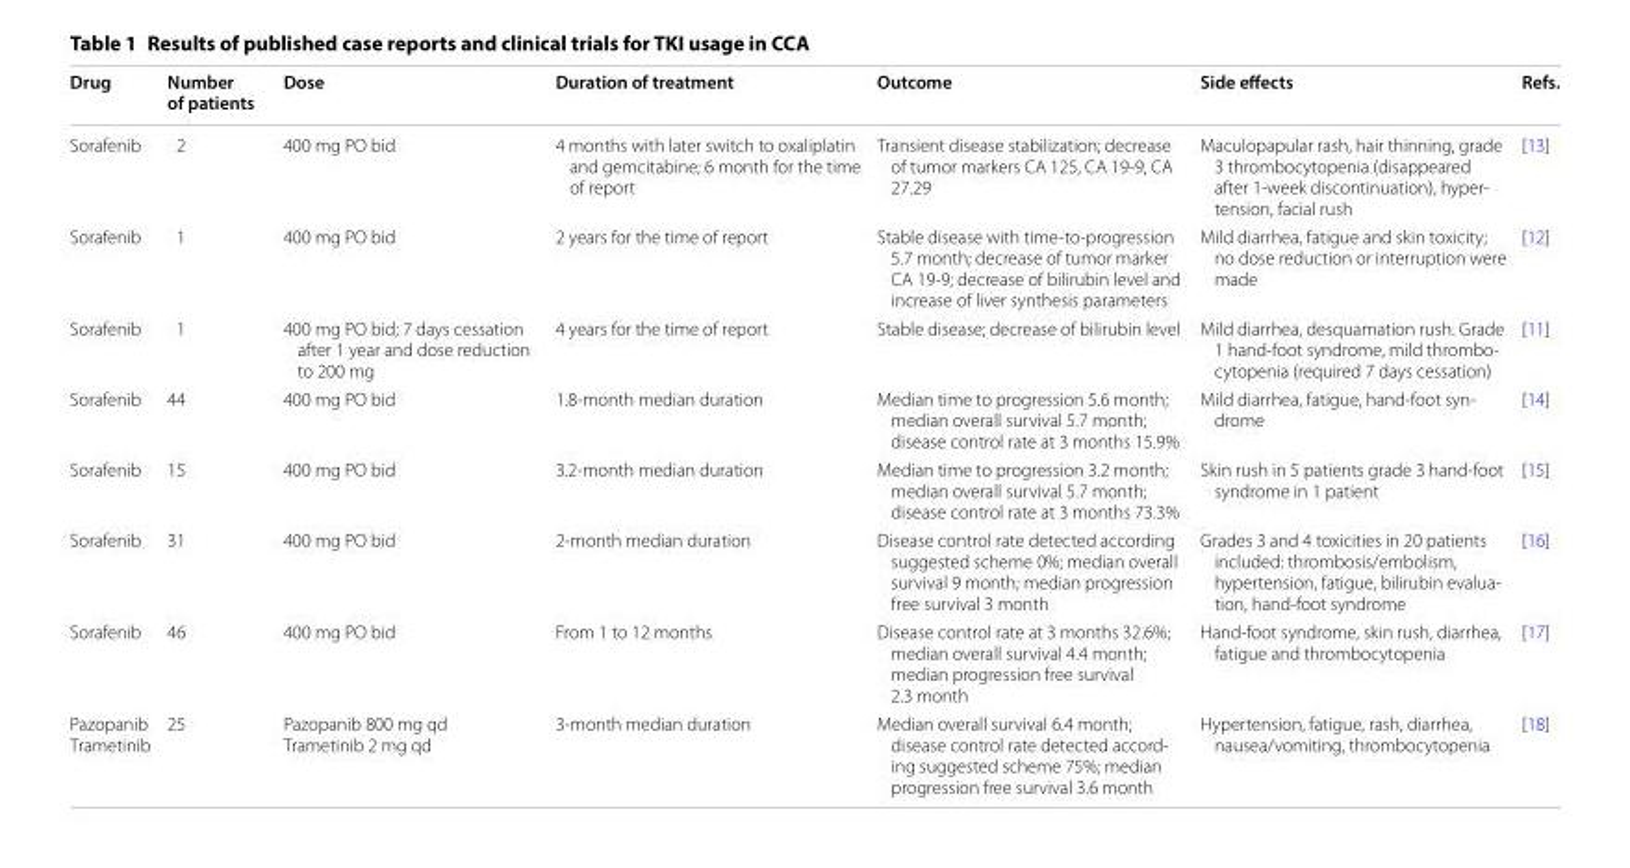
<table><thead><tr><td>Drug</td><td>Number of patients</td><td>Dose</td><td>Duration of treatment</td><td>Outcome</td><td>Side effects</td><td>Refs.</td></tr></thead><tbody><tr><td>Sorafenib</td><td>2</td><td>400 mg PO bid</td><td>4 months with later switch to oxaliplatin and gemcitabine; 6 month for the time of report</td><td>Transient disease stabilization; decrease of tumor markers CA 125, CA 19-9, CA 27.29</td><td>Maculopapular rash, hair thinning, grade 3 thrombocytopenia (disappeared after 1-week discontinuation), hyper- tension, facial rush</td><td>[13]</td></tr><tr><td>Sorafenib</td><td>1</td><td>400 mg PO bid</td><td>2 years for the time of report</td><td>Stable disease with time-to-progression 5.7 month; decrease of tumor marker CA 19-9; decrease of bilirubin level and increase of liver synthesis parameters</td><td>Mild diarrhea, fatigue and skin toxicity; no dose reduction or interruption were made</td><td>[12]</td></tr><tr><td>Sorafenib</td><td>1</td><td>400 mg PO bid; 7 days cessation after 1 year and dose reduction to 200 mg</td><td>4 years for the time of report</td><td>Stable disease; decrease of bilirubin level</td><td>Mild diarrhea, desquamation rush. Grade 1 hand-foot syndrome, mild thrombo- cytopenia (required 7 days cessation)</td><td>[11]</td></tr><tr><td>Sorafenib</td><td>44</td><td>400 mg PO bid</td><td>1.8-month median duration</td><td>Median time to progression 5.6 month; median overall survival 5.7 month; disease control rate at 3 months 15.9%</td><td>Mild diarrhea, fatigue, hand-foot syn- drome</td><td>[14]</td></tr><tr><td>Sorafenib</td><td>15</td><td>400 mg PO bid</td><td>3.2-month median duration</td><td>Median time to progression 3.2 month; median overall survival 5.7 month; disease control rate at 3 months 73.3%</td><td>Skin rush in 5 patients grade 3 hand-foot syndrome in 1 patient</td><td>[15]</td></tr><tr><td>Sorafenib</td><td>31</td><td>400 mg PO bid</td><td>2-month median duration</td><td>Disease control rate detected according suggested scheme 0%; median overall survival 9 month; median progression free survival 3 month</td><td>Grades 3 and 4 toxicities in 20 patients included: thrombosis/embolism, hypertension, fatigue, bilirubin evalua- tion, hand-foot syndrome</td><td>[16]</td></tr><tr><td>Sorafenib</td><td>46</td><td>400 mg PO bid</td><td>From 1 to 12 months</td><td>Disease control rate at 3 months 32.6%; median overall survival 4.4 month; median progression free survival 2.3 month</td><td>Hand-foot syndrome, skin rush, diarrhea, fatigue and thrombocytopenia</td><td>[17]</td></tr><tr><td>Pazopanib Trametinib</td><td>25</td><td>Pazopanib 800 mg qd Trametinib 2 mg qd</td><td>3-month median duration</td><td>Median overall survival 6.4 month; disease control rate detected accord- ing suggested scheme 75%; median progression free survival 3.6 month</td><td>Hypertension, fatigue, rash, diarrhea, nausea/vomiting, thrombocytopenia</td><td>[18]</td></tr></tbody></table>